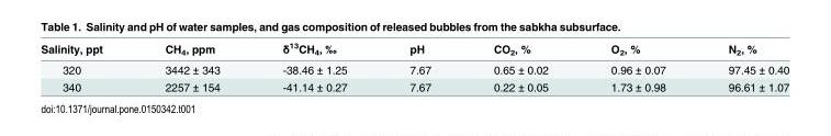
<table><thead><tr><td>Salinity, ppt</td><td>CH<sub>4</sub>, ppm</td><td>δ<sup>13</sup>CH<sub>4</sub>, ‰</td><td>pH</td><td>CO<sub>2</sub>, %</td><td>O<sub>2</sub>, %</td><td>N<sub>2</sub>, %</td></tr></thead><tbody><tr><td>320</td><td>3442 ± 343</td><td>-38.46 ± 1.25</td><td>7.67</td><td>0.65 ± 0.02</td><td>0.96 ± 0.07</td><td>97.45 ± 0.40</td></tr><tr><td>340</td><td>2257 ± 154</td><td>-41.14 ± 0.27</td><td>7.67</td><td>0.22 ± 0.05</td><td>1.73 ± 0.98</td><td>96.61 ± 1.07</td></tr></tbody></table>